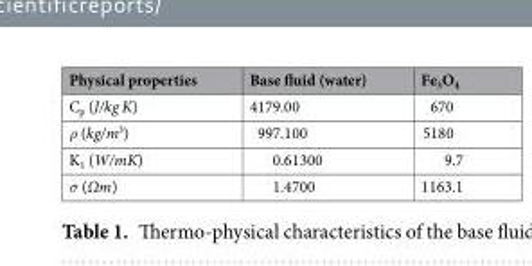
<table><thead><tr><td>Physical properties</td><td>Base fluid (water)</td><td>Fe<sub>3</sub>O<sub>4</sub></td></tr></thead><tbody><tr><td>C<sub>p</sub> (J/kg K)</td><td>4179.00</td><td>670</td></tr><tr><td>ρ (kg/m<sup>3</sup>)</td><td>997.100</td><td>5180</td></tr><tr><td>K<sub>1</sub> (W/mK)</td><td>0.61300</td><td>9.7</td></tr><tr><td>σ (Ωm)</td><td>1.4700</td><td>1163.1</td></tr></tbody></table>